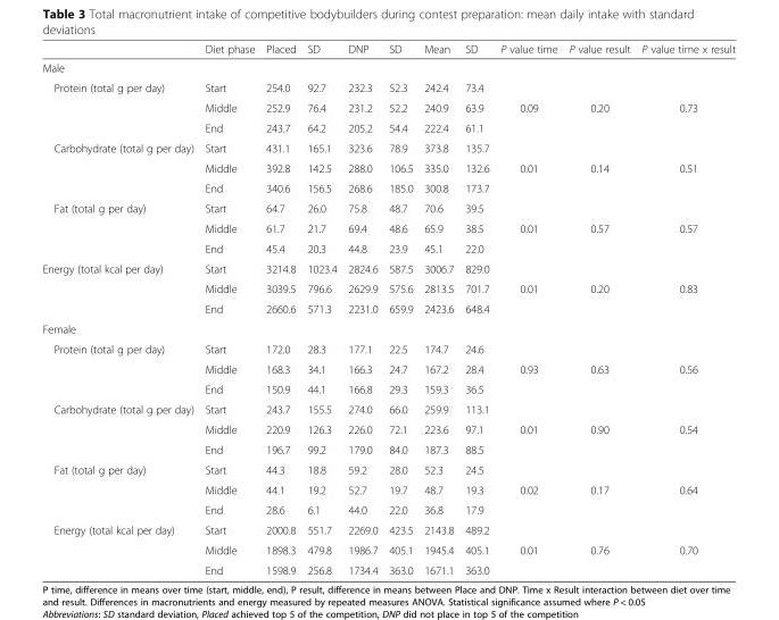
<table><thead><tr><td></td><td>Diet phase</td><td>Placed</td><td>SD</td><td>DNP</td><td>SD</td><td>Mean</td><td>SD</td><td>P value time</td><td>P value result</td><td>P value time x result</td></tr></thead><tbody><tr><td colspan="11">Male</td></tr><tr><td rowspan="3">Protein (total g per day)</td><td>Start</td><td>254.0</td><td>92.7</td><td>232.3</td><td>52.3</td><td>242.4</td><td>73.4</td><td></td><td></td><td></td></tr><tr><td>Middle</td><td>252.9</td><td>76.4</td><td>231.2</td><td>52.2</td><td>240.9</td><td>63.9</td><td>0.09</td><td>0.20</td><td>0.73</td></tr><tr><td>End</td><td>243.7</td><td>64.2</td><td>205.2</td><td>54.4</td><td>222.4</td><td>61.1</td><td></td><td></td><td></td></tr><tr><td rowspan="3">Carbohydrate (total g per day)</td><td>Start</td><td>431.1</td><td>165.1</td><td>323.6</td><td>78.9</td><td>373.8</td><td>135.7</td><td></td><td></td><td></td></tr><tr><td>Middle</td><td>392.8</td><td>142.5</td><td>288.0</td><td>106.5</td><td>335.0</td><td>132.6</td><td>0.01</td><td>0.14</td><td>0.51</td></tr><tr><td>End</td><td>340.6</td><td>156.5</td><td>268.6</td><td>185.0</td><td>300.8</td><td>173.7</td><td></td><td></td><td></td></tr><tr><td rowspan="3">Fat (total g per day)</td><td>Start</td><td>64.7</td><td>26.0</td><td>75.8</td><td>48.7</td><td>70.6</td><td>39.5</td><td></td><td></td><td></td></tr><tr><td>Middle</td><td>61.7</td><td>21.7</td><td>69.4</td><td>48.6</td><td>65.9</td><td>38.5</td><td>0.01</td><td>0.57</td><td>0.57</td></tr><tr><td>End</td><td>45.4</td><td>20.3</td><td>44.8</td><td>23.9</td><td>45.1</td><td>22.0</td><td></td><td></td><td></td></tr><tr><td rowspan="3">Energy (total kcal per day)</td><td>Start</td><td>3214.8</td><td>1023.4</td><td>2824.6</td><td>587.5</td><td>3006.7</td><td>829.0</td><td></td><td></td><td></td></tr><tr><td>Middle</td><td>3039.5</td><td>796.6</td><td>2629.9</td><td>575.6</td><td>2813.5</td><td>701.7</td><td>0.01</td><td>0.20</td><td>0.83</td></tr><tr><td>End</td><td>2660.6</td><td>571.3</td><td>2231.0</td><td>659.9</td><td>2423.6</td><td>648.4</td><td></td><td></td><td></td></tr><tr><td colspan="11">Female</td></tr><tr><td rowspan="3">Protein (total g per day)</td><td>Start</td><td>172.0</td><td>28.3</td><td>177.1</td><td>22.5</td><td>174.7</td><td>24.6</td><td></td><td></td><td></td></tr><tr><td>Middle</td><td>168.3</td><td>34.1</td><td>166.3</td><td>24.7</td><td>167.2</td><td>28.4</td><td>0.93</td><td>0.63</td><td>0.56</td></tr><tr><td>End</td><td>150.9</td><td>44.1</td><td>166.8</td><td>29.3</td><td>159.3</td><td>36.5</td><td></td><td></td><td></td></tr><tr><td rowspan="3">Carbohydrate (total g per day)</td><td>Start</td><td>243.7</td><td>155.5</td><td>274.0</td><td>66.0</td><td>259.9</td><td>113.1</td><td></td><td></td><td></td></tr><tr><td>Middle</td><td>220.9</td><td>126.3</td><td>226.0</td><td>72.1</td><td>223.6</td><td>97.1</td><td>0.01</td><td>0.90</td><td>0.54</td></tr><tr><td>End</td><td>196.7</td><td>99.2</td><td>179.0</td><td>84.0</td><td>187.3</td><td>88.5</td><td></td><td></td><td></td></tr><tr><td rowspan="3">Fat (total g per day)</td><td>Start</td><td>44.3</td><td>18.8</td><td>59.2</td><td>28.0</td><td>52.3</td><td>24.5</td><td></td><td></td><td></td></tr><tr><td>Middle</td><td>44.1</td><td>19.2</td><td>52.7</td><td>19.7</td><td>48.7</td><td>19.3</td><td>0.02</td><td>0.17</td><td>0.64</td></tr><tr><td>End</td><td>28.6</td><td>6.1</td><td>44.0</td><td>22.0</td><td>36.8</td><td>17.9</td><td></td><td></td><td></td></tr><tr><td rowspan="3">Energy (total kcal per day)</td><td>Start</td><td>2000.8</td><td>551.7</td><td>2269.0</td><td>423.5</td><td>2143.8</td><td>489.2</td><td></td><td></td><td></td></tr><tr><td>Middle</td><td>1898.3</td><td>479.8</td><td>1986.7</td><td>405.1</td><td>1945.4</td><td>405.1</td><td>0.01</td><td>0.76</td><td>0.70</td></tr><tr><td>End</td><td>1598.9</td><td>256.8</td><td>1734.4</td><td>363.0</td><td>1671.1</td><td>363.0</td><td></td><td></td><td></td></tr></tbody></table>